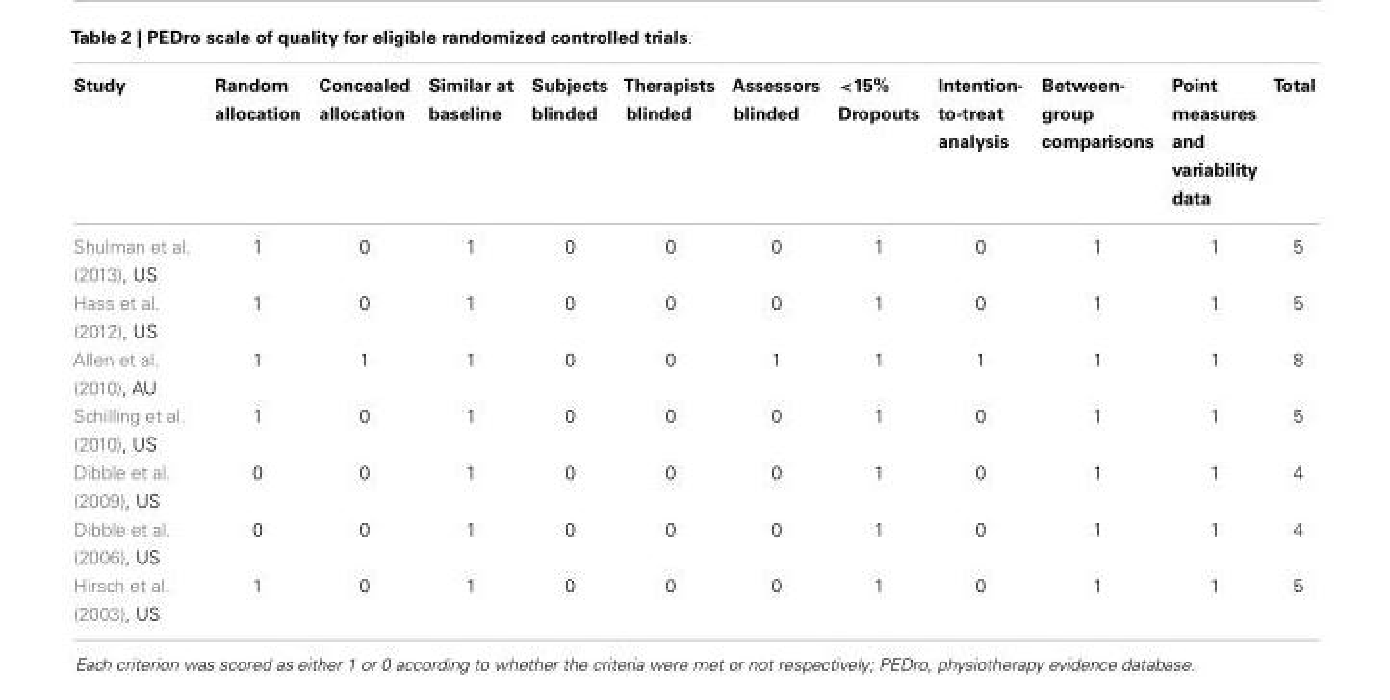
<table><thead><tr><td>Study</td><td>Random allocation</td><td>Concealed allocation</td><td>Similar at baseline</td><td>Subjects blinded</td><td>Therapists blinded</td><td>Assessors blinded</td><td>&lt;15% Dropouts</td><td>Intention- to-treat analysis</td><td>Between- group comparisons</td><td>Point measures and variability data</td><td>Total</td></tr></thead><tbody><tr><td>Shulman et al. (2013), US</td><td>1</td><td>0</td><td>1</td><td>0</td><td>0</td><td>0</td><td>1</td><td>0</td><td>1</td><td>1</td><td>5</td></tr><tr><td>Hass et al. (2012), US</td><td>1</td><td>0</td><td>1</td><td>0</td><td>0</td><td>0</td><td>1</td><td>0</td><td>1</td><td>1</td><td>5</td></tr><tr><td>Allen et al. (2010), AU</td><td>1</td><td>1</td><td>1</td><td>0</td><td>0</td><td>1</td><td>1</td><td>1</td><td>1</td><td>1</td><td>8</td></tr><tr><td>Schilling et al. (2010), US</td><td>1</td><td>0</td><td>1</td><td>0</td><td>0</td><td>0</td><td>1</td><td>0</td><td>1</td><td>1</td><td>5</td></tr><tr><td>Dibble et al. (2009), US</td><td>0</td><td>0</td><td>1</td><td>0</td><td>0</td><td>0</td><td>1</td><td>0</td><td>1</td><td>1</td><td>4</td></tr><tr><td>Dibble et al. (2006), US</td><td>0</td><td>0</td><td>1</td><td>0</td><td>0</td><td>0</td><td>1</td><td>0</td><td>1</td><td>1</td><td>4</td></tr><tr><td>Hirsch et al. (2003), US</td><td>1</td><td>0</td><td>1</td><td>0</td><td>0</td><td>0</td><td>1</td><td>0</td><td>1</td><td>1</td><td>5</td></tr></tbody></table>